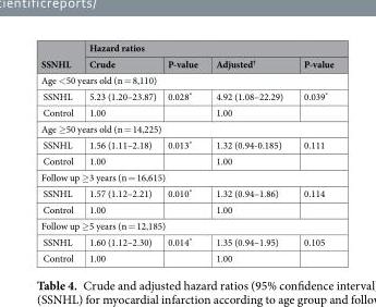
<table><thead><tr><td rowspan="2">SSNHL</td><td colspan="4">Hazard ratios</td></tr><tr><td>Crude</td><td>P-value</td><td>Adjusted<sup>†</sup></td><td>P-value</td></tr></thead><tbody><tr><td colspan="5">Age &lt;50 years old (n = 8,110)</td></tr><tr><td>SSNHL</td><td>5.23 (1.20–23.87)</td><td>0.028*</td><td>4.92 (1.08–22.29)</td><td>0.039*</td></tr><tr><td>Control</td><td>1.00</td><td></td><td>1.00</td><td></td></tr><tr><td colspan="5">Age ≥50 years old (n = 14,225)</td></tr><tr><td>SSNHL</td><td>1.56 (1.11–2.18)</td><td>0.013*</td><td>1.32 (0.94-0.185)</td><td>0.111</td></tr><tr><td>Control</td><td>1.00</td><td></td><td>1.00</td><td></td></tr><tr><td colspan="5">Follow up ≥3 years (n = 16,615)</td></tr><tr><td>SSNHL</td><td>1.57 (1.12–2.21)</td><td>0.010*</td><td>1.32 (0.94–1.86)</td><td>0.114</td></tr><tr><td>Control</td><td>1.00</td><td></td><td>1.00</td><td></td></tr><tr><td colspan="5">Follow up ≥5 years (n = 12,185)</td></tr><tr><td>SSNHL</td><td>1.60 (1.12–2.30)</td><td>0.014*</td><td>1.35 (0.94–1.95)</td><td>0.105</td></tr><tr><td>Control</td><td>1.00</td><td></td><td>1.00</td><td></td></tr></tbody></table>